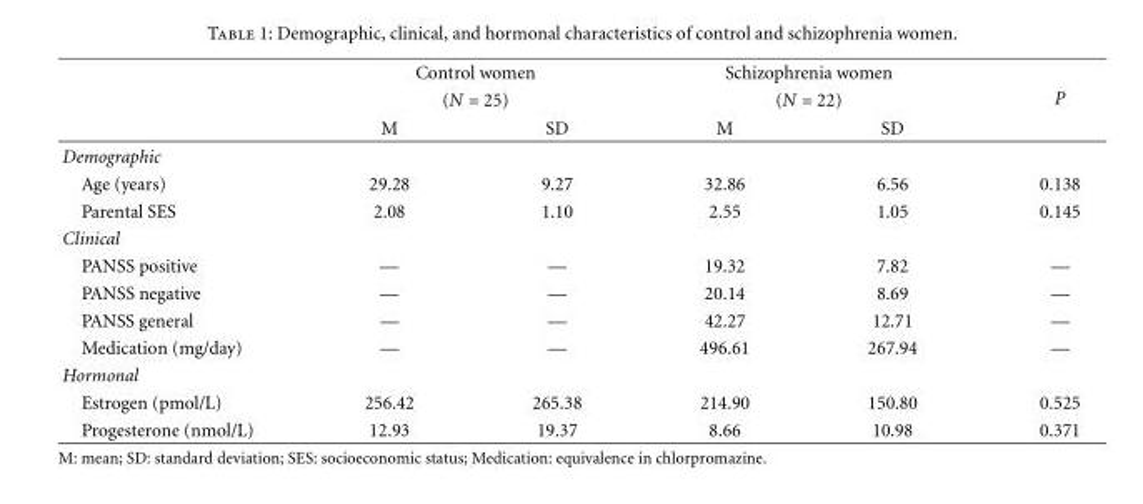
<table><thead><tr><td rowspan="3"></td><td rowspan="2" colspan="2">Control women (N = 25)</td><td rowspan="2" colspan="2">Schizophrenia women (N = 22)</td><td rowspan="3">P</td></tr><tr></tr><tr><td>M</td><td>SD</td><td>M</td><td>SD</td></tr></thead><tbody><tr><td colspan="6">Demographic</td></tr><tr><td>Age (years)</td><td>29.28</td><td>9.27</td><td>32.86</td><td>6.56</td><td>0.138</td></tr><tr><td>Parental SES</td><td>2.08</td><td>1.10</td><td>2.55</td><td>1.05</td><td>0.145</td></tr><tr><td colspan="6">Clinical</td></tr><tr><td>PANSS positive</td><td>—</td><td>—</td><td>19.32</td><td>7.82</td><td>—</td></tr><tr><td>PANSS negative</td><td>—</td><td>—</td><td>20.14</td><td>8.69</td><td>—</td></tr><tr><td>PANSS general</td><td>—</td><td>—</td><td>42.27</td><td>12.71</td><td>—</td></tr><tr><td>Medication (mg/day)</td><td>—</td><td>—</td><td>496.61</td><td>267.94</td><td>—</td></tr><tr><td colspan="6">Hormonal</td></tr><tr><td>Estrogen (pmol/L)</td><td>256.42</td><td>265.38</td><td>214.90</td><td>150.80</td><td>0.525</td></tr><tr><td>Progesterone (nmol/L)</td><td>12.93</td><td>19.37</td><td>8.66</td><td>10.98</td><td>0.371</td></tr></tbody></table>